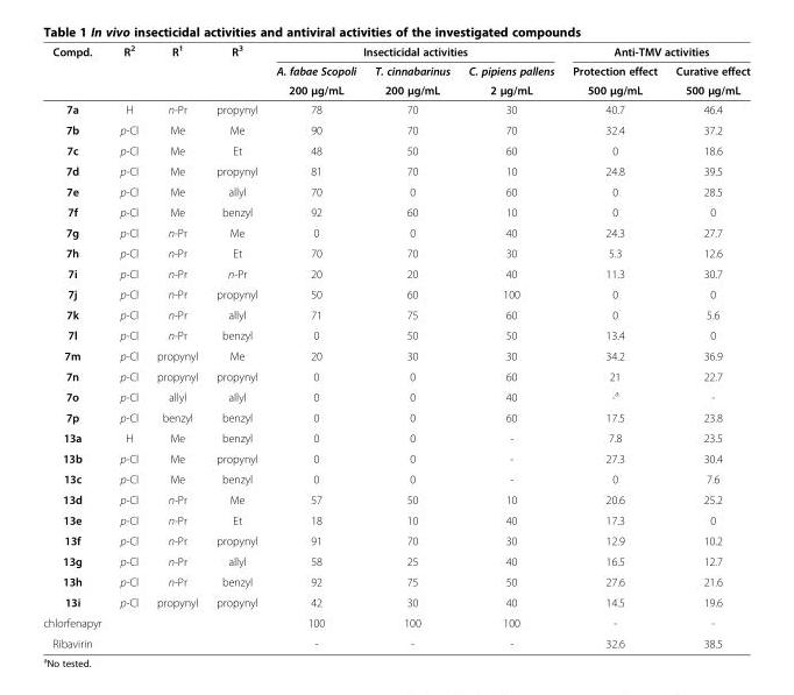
<table><thead><tr><td rowspan="3">Compd.</td><td rowspan="3">R<sup>2</sup></td><td rowspan="3">R<sup>1</sup></td><td rowspan="3">R<sup>3</sup></td><td colspan="3">Insecticidal activities</td><td colspan="2">Anti-TMV activities</td></tr><tr><td rowspan="2">A. fabae Scopoli 200 μg/mL</td><td rowspan="2">T. cinnabarinus 200 μg/mL</td><td rowspan="2">C. pipiens pallens 2 μg/mL</td><td rowspan="2">Protection effect 500 μg/mL</td><td rowspan="2">Curative effect 500 μg/mL</td></tr><tr></tr></thead><tbody><tr><td>7a</td><td>H</td><td>n-Pr</td><td>propynyl</td><td>78</td><td>70</td><td>30</td><td>40.7</td><td>46.4</td></tr><tr><td>7b</td><td>p-Cl</td><td>Me</td><td>Me</td><td>90</td><td>70</td><td>70</td><td>32.4</td><td>37.2</td></tr><tr><td>7c</td><td>p-Cl</td><td>Me</td><td>Et</td><td>48</td><td>50</td><td>60</td><td>0</td><td>18.6</td></tr><tr><td>7d</td><td>p-Cl</td><td>Me</td><td>propynyl</td><td>81</td><td>70</td><td>10</td><td>24.8</td><td>39.5</td></tr><tr><td>7e</td><td>p-Cl</td><td>Me</td><td>allyl</td><td>70</td><td>0</td><td>60</td><td>0</td><td>28.5</td></tr><tr><td>7f</td><td>p-Cl</td><td>Me</td><td>benzyl</td><td>92</td><td>60</td><td>10</td><td>0</td><td>0</td></tr><tr><td>7g</td><td>p-Cl</td><td>n-Pr</td><td>Me</td><td>0</td><td>0</td><td>40</td><td>24.3</td><td>27.7</td></tr><tr><td>7h</td><td>p-Cl</td><td>n-Pr</td><td>Et</td><td>70</td><td>70</td><td>30</td><td>5.3</td><td>12.6</td></tr><tr><td>7i</td><td>p-Cl</td><td>n-Pr</td><td>n-Pr</td><td>20</td><td>20</td><td>40</td><td>11.3</td><td>30.7</td></tr><tr><td>7j</td><td>p-Cl</td><td>n-Pr</td><td>propynyl</td><td>50</td><td>60</td><td>100</td><td>0</td><td>0</td></tr><tr><td>7k</td><td>p-Cl</td><td>n-Pr</td><td>allyl</td><td>71</td><td>75</td><td>60</td><td>0</td><td>5.6</td></tr><tr><td>7l</td><td>p-Cl</td><td>n-Pr</td><td>benzyl</td><td>0</td><td>50</td><td>50</td><td>13.4</td><td>0</td></tr><tr><td>7m</td><td>p-Cl</td><td>propynyl</td><td>Me</td><td>20</td><td>30</td><td>30</td><td>34.2</td><td>36.9</td></tr><tr><td>7n</td><td>p-Cl</td><td>propynyl</td><td>propynyl</td><td>0</td><td>0</td><td>60</td><td>21</td><td>22.7</td></tr><tr><td>7o</td><td>p-Cl</td><td>allyl</td><td>allyl</td><td>0</td><td>0</td><td>40</td><td>-<sup>a</sup></td><td>-</td></tr><tr><td>7p</td><td>p-Cl</td><td>benzyl</td><td>benzyl</td><td>0</td><td>0</td><td>60</td><td>17.5</td><td>23.8</td></tr><tr><td>13a</td><td>H</td><td>Me</td><td>benzyl</td><td>0</td><td>0</td><td>-</td><td>7.8</td><td>23.5</td></tr><tr><td>13b</td><td>p-Cl</td><td>Me</td><td>propynyl</td><td>0</td><td>0</td><td>-</td><td>27.3</td><td>30.4</td></tr><tr><td>13c</td><td>p-Cl</td><td>Me</td><td>benzyl</td><td>0</td><td>0</td><td>-</td><td>0</td><td>7.6</td></tr><tr><td>13d</td><td>p-Cl</td><td>n-Pr</td><td>Me</td><td>57</td><td>50</td><td>10</td><td>20.6</td><td>25.2</td></tr><tr><td>13e</td><td>p-Cl</td><td>n-Pr</td><td>Et</td><td>18</td><td>10</td><td>40</td><td>17.3</td><td>0</td></tr><tr><td>13f</td><td>p-Cl</td><td>n-Pr</td><td>propynyl</td><td>91</td><td>70</td><td>30</td><td>12.9</td><td>10.2</td></tr><tr><td>13g</td><td>p-Cl</td><td>n-Pr</td><td>allyl</td><td>58</td><td>25</td><td>40</td><td>16.5</td><td>12.7</td></tr><tr><td>13h</td><td>p-Cl</td><td>n-Pr</td><td>benzyl</td><td>92</td><td>75</td><td>50</td><td>27.6</td><td>21.6</td></tr><tr><td>13i</td><td>p-Cl</td><td>propynyl</td><td>propynyl</td><td>42</td><td>30</td><td>40</td><td>14.5</td><td>19.6</td></tr><tr><td>chlorfenapyr</td><td></td><td></td><td></td><td>100</td><td>100</td><td>100</td><td>-</td><td>-</td></tr><tr><td>Ribavirin</td><td></td><td></td><td></td><td>-</td><td>-</td><td>-</td><td>32.6</td><td>38.5</td></tr></tbody></table>